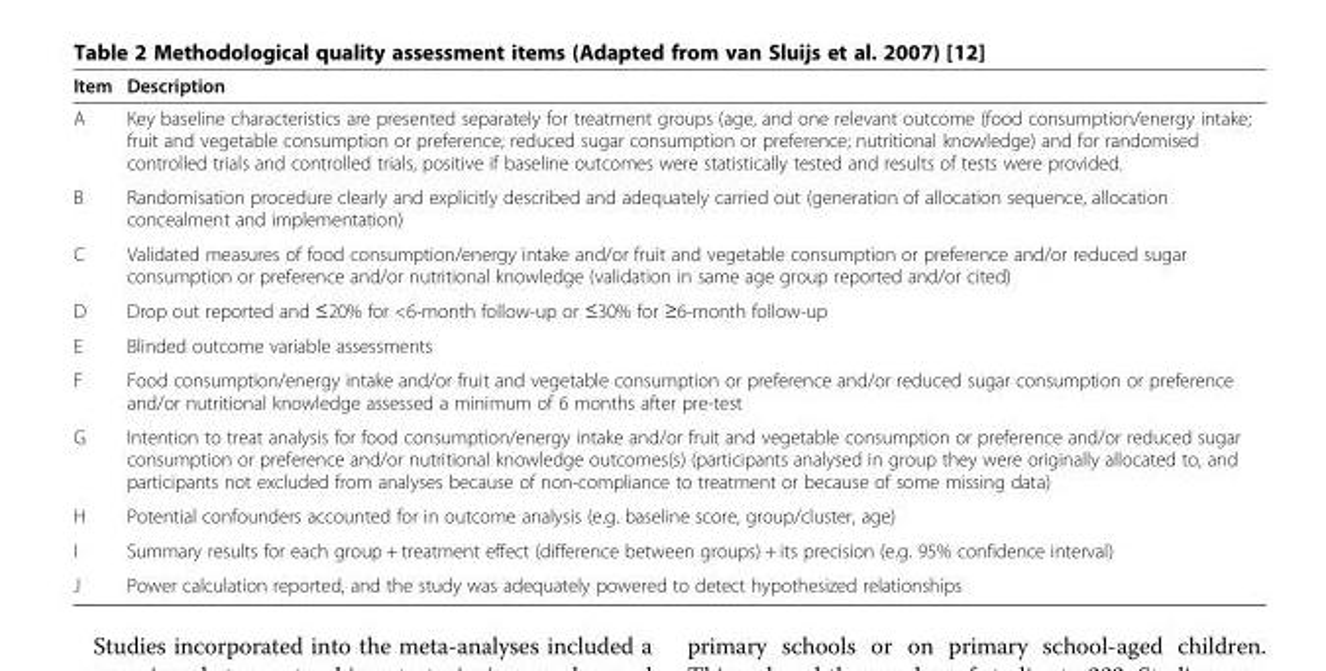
<table><thead><tr><td>Item</td><td>Description</td></tr></thead><tbody><tr><td>A</td><td>Key baseline characteristics are presented separately for treatment groups (age, and one relevant outcome (food consumption/energy intake; fruit and vegetable consumption or preference; reduced sugar consumption or preference; nutritional knowledge) and for randomised controlled trials and controlled trials, positive if baseline outcomes were statistically tested and results of tests were provided.</td></tr><tr><td>B</td><td>Randomisation procedure clearly and explicitly described and adequately carried out (generation of allocation sequence, allocation concealment and implementation)</td></tr><tr><td>C</td><td>Validated measures of food consumption/energy intake and/or fruit and vegetable consumption or preference and/or reduced sugar consumption or preference and/or nutritional knowledge (validation in same age group reported and/or cited)</td></tr><tr><td>D</td><td>Drop out reported and ≤20% for &lt;6-month follow-up or ≤30% for ≥6-month follow-up</td></tr><tr><td>E</td><td>Blinded outcome variable assessments</td></tr><tr><td>F</td><td>Food consumption/energy intake and/or fruit and vegetable consumption or preference and/or reduced sugar consumption or preference and/or nutritional knowledge assessed a minimum of 6 months after pre-test</td></tr><tr><td>G</td><td>Intention to treat analysis for food consumption/energy intake and/or fruit and vegetable consumption or preference and/or reduced sugar consumption or preference and/or nutritional knowledge outcomes(s) (participants analysed in group they were originally allocated to, and participants not excluded from analyses because of non-compliance to treatment or because of some missing data)</td></tr><tr><td>H</td><td>Potential confounders accounted for in outcome analysis (e.g. baseline score, group/cluster, age)</td></tr><tr><td>I</td><td>Summary results for each group + treatment effect (difference between groups) + its precision (e.g. 95% confidence interval)</td></tr><tr><td>J</td><td>Power calculation reported, and the study was adequately powered to detect hypothesized relationships</td></tr></tbody></table>